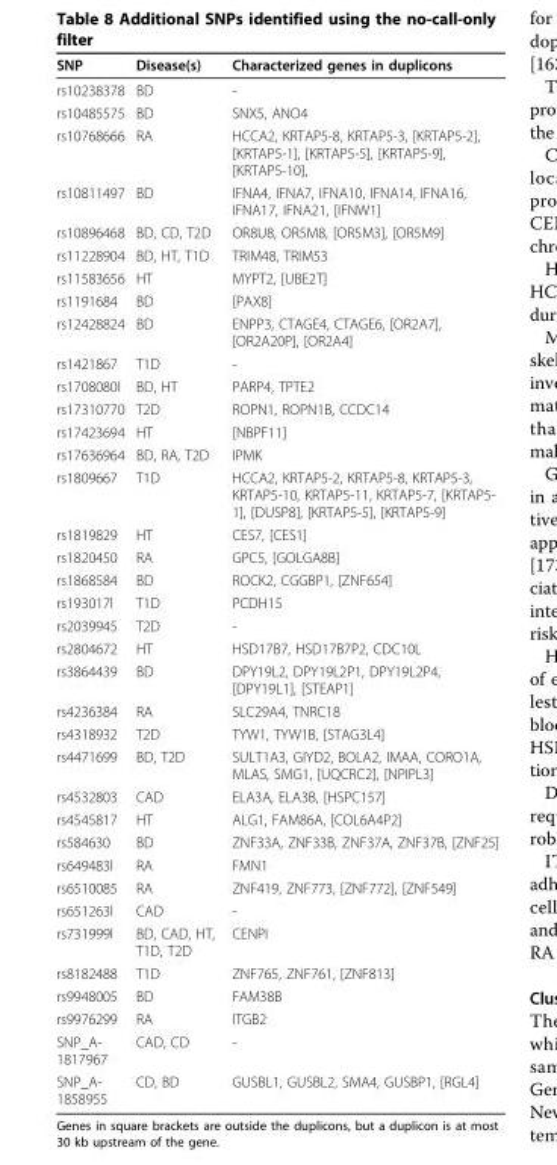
<table><thead><tr><td>SNP</td><td>Disease(s)</td><td>Characterized genes in duplicons</td></tr></thead><tbody><tr><td>rs10238378</td><td>BD</td><td>-</td></tr><tr><td>rs10485575</td><td>BD</td><td>SNX5, ANO4</td></tr><tr><td>rs10768666</td><td>RA</td><td>HCCA2, KRTAP5-8, KRTAP5-3, [KRTAP5-2], [KRTAP5-1], [KRTAP5-5], [KRTAP5-9], [KRTAP5-10],</td></tr><tr><td>rs10811497</td><td>BD</td><td>IFNA4, IFNA7, IFNA10, IFNA14, IFNA16, IFNA17, IFNA21, [IFNW1]</td></tr><tr><td>rs10896468</td><td>BD, CD, T2D</td><td>OR8U8, OR5M8, [OR5M3], [OR5M9]</td></tr><tr><td>rs11228904</td><td>BD, HT, T1D</td><td>TRIM48, TRIM53</td></tr><tr><td>rs11583656</td><td>HT</td><td>MYPT2, [UBE2T]</td></tr><tr><td>rs1191684</td><td>BD</td><td>[PAX8]</td></tr><tr><td>rs12428824</td><td>BD</td><td>ENPP3, CTAGE4, CTAGE6, [OR2A7], [OR2A20P], [OR2A4]</td></tr><tr><td>rs1421867</td><td>T1D</td><td>-</td></tr><tr><td>rs1708080l</td><td>BD, HT</td><td>PARP4, TPTE2</td></tr><tr><td>rs17310770</td><td>T2D</td><td>ROPN1, ROPN1B, CCDC14</td></tr><tr><td>rs17423694</td><td>HT</td><td>[NBPF11]</td></tr><tr><td>rs17636964</td><td>BD, RA, T2D</td><td>IPMK</td></tr><tr><td>rs1809667</td><td>T1D</td><td>HCCA2, KRTAP5-2, KRTAP5-8, KRTAP5-3, KRTAP5-10, KRTAP5-11, KRTAP5-7, [KRTAP5- 1], [DUSP8], [KRTAP5-5], [KRTAP5-9]</td></tr><tr><td>rs1819829</td><td>HT</td><td>CES7, [CES1]</td></tr><tr><td>rs1820450</td><td>RA</td><td>GPC5, [GOLGA8B]</td></tr><tr><td>rs1868584</td><td>BD</td><td>ROCK2, CGGBP1, [ZNF654]</td></tr><tr><td>rs193017l</td><td>T1D</td><td>PCDH15</td></tr><tr><td>rs2039945</td><td>T2D</td><td>-</td></tr><tr><td>rs2804672</td><td>HT</td><td>HSD17B7, HSD17B7P2, CDC10L</td></tr><tr><td>rs3864439</td><td>BD</td><td>DPY19L2, DPY19L2P1, DPY19L2P4, [DPY19L1], [STEAP1]</td></tr><tr><td>rs4236384</td><td>RA</td><td>SLC29A4, TNRC18</td></tr><tr><td>rs4318932</td><td>T2D</td><td>TYW1, TYW1B, [STAG3L4]</td></tr><tr><td>rs4471699</td><td>BD, T2D</td><td>SULT1A3, GIYD2, BOLA2, IMAA, CORO1A, MLAS, SMG1, [UQCRC2], [NPIPL3]</td></tr><tr><td>rs4532803</td><td>CAD</td><td>ELA3A, ELA3B, [HSPC157]</td></tr><tr><td>rs4545817</td><td>HT</td><td>ALG1, FAM86A, [COL6A4P2]</td></tr><tr><td>rs584630</td><td>BD</td><td>ZNF33A, ZNF33B, ZNF37A, ZNF37B, [ZNF25]</td></tr><tr><td>rs649483l</td><td>RA</td><td>FMN1</td></tr><tr><td>rs6510085</td><td>RA</td><td>ZNF419, ZNF773, [ZNF772], [ZNF549]</td></tr><tr><td>rs651263l</td><td>CAD</td><td>-</td></tr><tr><td>rs731999l</td><td>BD, CAD, HT, T1D, T2D</td><td>CENPI</td></tr><tr><td>rs8182488</td><td>T1D</td><td>ZNF765, ZNF761, [ZNF813]</td></tr><tr><td>rs9948005</td><td>BD</td><td>FAM38B</td></tr><tr><td>rs9976299</td><td>RA</td><td>ITGB2</td></tr><tr><td>SNP_A- 1817967</td><td>CAD, CD</td><td>-</td></tr><tr><td>SNP_A- 1858955</td><td>CD, BD</td><td>GUSBL1, GUSBL2, SMA4, GUSBP1, [RGL4]</td></tr></tbody></table>